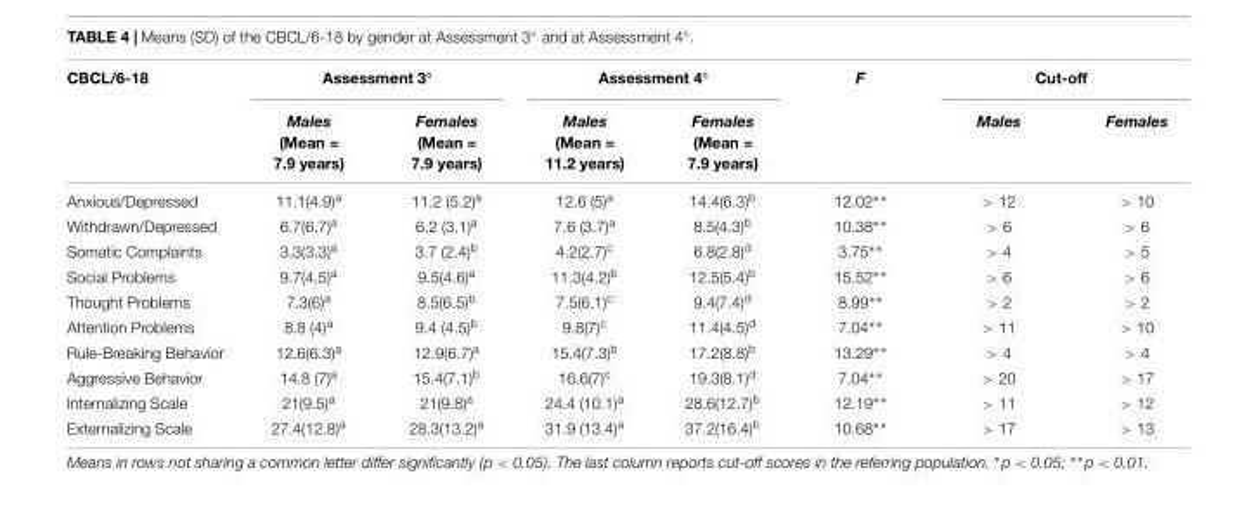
<table><thead><tr><td rowspan="2">CBCL/6-18</td><td colspan="2">Assessment 3◦</td><td colspan="2">Assessment 4◦</td><td rowspan="2">F</td><td colspan="2">Cut-off</td></tr><tr><td>Males (Mean = 7.9 years)</td><td>Females (Mean = 7.9 years)</td><td>Males (Mean = 11.2 years)</td><td>Females (Mean = 7.9 years)</td><td>Males</td><td>Females</td></tr></thead><tbody><tr><td>Anxious/Depressed</td><td>11.1(4.9)<sup>a</sup></td><td>11.2 (5.2)<sup>a</sup></td><td>12.6 (5)<sup>a</sup></td><td>14.4(6.3)<sup>b</sup></td><td>12.02∗∗</td><td>&gt; 12</td><td>&gt; 10</td></tr><tr><td>Withdrawn/Depressed</td><td>6.7(6.7)<sup>a</sup></td><td>6.2 (3.1)<sup>a</sup></td><td>7.6 (3.7)<sup>a</sup></td><td>8.5(4.3)<sup>b</sup></td><td>10.38∗∗</td><td>&gt; 6</td><td>&gt; 6</td></tr><tr><td>Somatic Complaints</td><td>3.3(3.3)<sup>a</sup></td><td>3.7 (2.4)<sup>b</sup></td><td>4.2(2.7)<sup>c</sup></td><td>6.8(2.8)<sup>d</sup></td><td>3.75∗∗</td><td>&gt; 4</td><td>&gt; 5</td></tr><tr><td>Social Problems</td><td>9.7(4.5)<sup>a</sup></td><td>9.5(4.6)<sup>a</sup></td><td>11.3(4.2)<sup>b</sup></td><td>12.5(5.4)<sup>b</sup></td><td>15.52∗∗</td><td>&gt; 6</td><td>&gt; 6</td></tr><tr><td>Thought Problems</td><td>7.3(6)<sup>a</sup></td><td>8.5(6.5)<sup>b</sup></td><td>7.5(6.1)<sup>c</sup></td><td>9.4(7.4)<sup>d</sup></td><td>8.99∗∗</td><td>&gt; 2</td><td>&gt; 2</td></tr><tr><td>Attention Problems</td><td>8.8 (4)<sup>a</sup></td><td>9.4 (4.5)<sup>b</sup></td><td>9.8(7)<sup>c</sup></td><td>11.4(4.5)<sup>d</sup></td><td>7.04∗∗</td><td>&gt; 11</td><td>&gt; 10</td></tr><tr><td>Rule-Breaking Behavior</td><td>12.6(6.3)<sup>a</sup></td><td>12.9(6.7)<sup>a</sup></td><td>15.4(7.3)<sup>b</sup></td><td>17.2(8.8)<sup>b</sup></td><td>13.29∗∗</td><td>&gt; 4</td><td>&gt; 4</td></tr><tr><td>Aggressive Behavior</td><td>14.8 (7)<sup>a</sup></td><td>15.4(7.1)<sup>b</sup></td><td>16.6(7)<sup>c</sup></td><td>19.3(8.1)<sup>d</sup></td><td>7.04∗∗</td><td>&gt; 20</td><td>&gt; 17</td></tr><tr><td>Internalizing Scale</td><td>21(9.5)<sup>a</sup></td><td>21(9.8)<sup>a</sup></td><td>24.4 (10.1)<sup>a</sup></td><td>28.6(12.7)<sup>b</sup></td><td>12.19∗∗</td><td>&gt; 11</td><td>&gt; 12</td></tr><tr><td>Externalizing Scale</td><td>27.4(12.8)<sup>a</sup></td><td>28.3(13.2)<sup>a</sup></td><td>31.9 (13.4)<sup>a</sup></td><td>37.2(16.4)<sup>b</sup></td><td>10.68∗∗</td><td>&gt; 17</td><td>&gt; 13</td></tr></tbody></table>